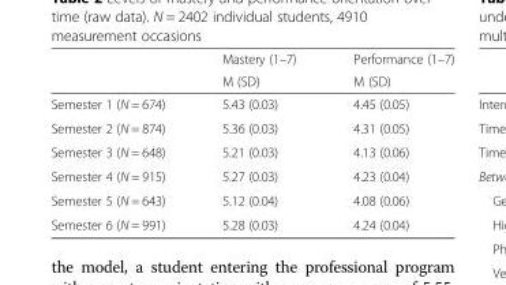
<table><thead><tr><td rowspan="2"></td><td rowspan="2">Mastery (1–7) M (SD)</td><td rowspan="2">Performance (1–7) M (SD)</td></tr><tr></tr></thead><tbody><tr><td>Semester 1 (N = 674)</td><td>5.43 (0.03)</td><td>4.45 (0.05)</td></tr><tr><td>Semester 2 (N = 874)</td><td>5.36 (0.03)</td><td>4.31 (0.05)</td></tr><tr><td>Semester 3 (N = 648)</td><td>5.21 (0.03)</td><td>4.13 (0.06)</td></tr><tr><td>Semester 4 (N = 915)</td><td>5.27 (0.03)</td><td>4.23 (0.04)</td></tr><tr><td>Semester 5 (N = 643)</td><td>5.12 (0.04)</td><td>4.08 (0.06)</td></tr><tr><td>Semester 6 (N = 991)</td><td>5.28 (0.03)</td><td>4.24 (0.04)</td></tr></tbody></table>